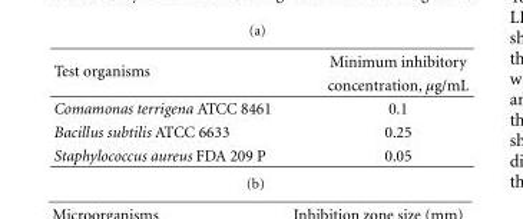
<table><thead><tr><td rowspan="2">Test organisms</td><td rowspan="2">Minimum inhibitory concentration, μg/mL</td></tr><tr></tr></thead><tbody><tr><td>Comamonas terrigena ATCC 8461</td><td>0.1</td></tr><tr><td>Bacillus subtilis ATCC 6633</td><td>0.25</td></tr><tr><td>Staphylococcus aureus FDA 209 P</td><td>0.05</td></tr></tbody></table>